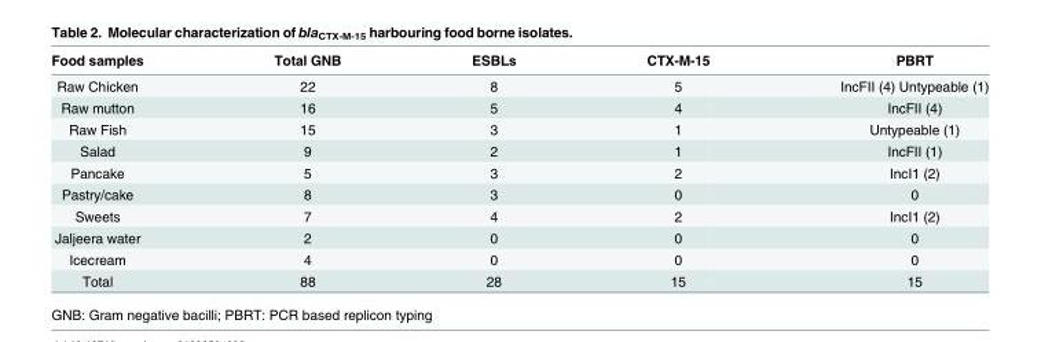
<table><thead><tr><td>Food samples</td><td>Total GNB</td><td>ESBLs</td><td>CTX-M-15</td><td>PBRT</td></tr></thead><tbody><tr><td>Raw Chicken</td><td>22</td><td>8</td><td>5</td><td>IncFII (4) Untypeable (1)</td></tr><tr><td>Raw mutton</td><td>16</td><td>5</td><td>4</td><td>IncFII (4)</td></tr><tr><td>Raw Fish</td><td>15</td><td>3</td><td>1</td><td>Untypeable (1)</td></tr><tr><td>Salad</td><td>9</td><td>2</td><td>1</td><td>IncFII (1)</td></tr><tr><td>Pancake</td><td>5</td><td>3</td><td>2</td><td>IncI1 (2)</td></tr><tr><td>Pastry/cake</td><td>8</td><td>3</td><td>0</td><td>0</td></tr><tr><td>Sweets</td><td>7</td><td>4</td><td>2</td><td>IncI1 (2)</td></tr><tr><td>Jaljeera water</td><td>2</td><td>0</td><td>0</td><td>0</td></tr><tr><td>Icecream</td><td>4</td><td>0</td><td>0</td><td>0</td></tr><tr><td>Total</td><td>88</td><td>28</td><td>15</td><td>15</td></tr></tbody></table>